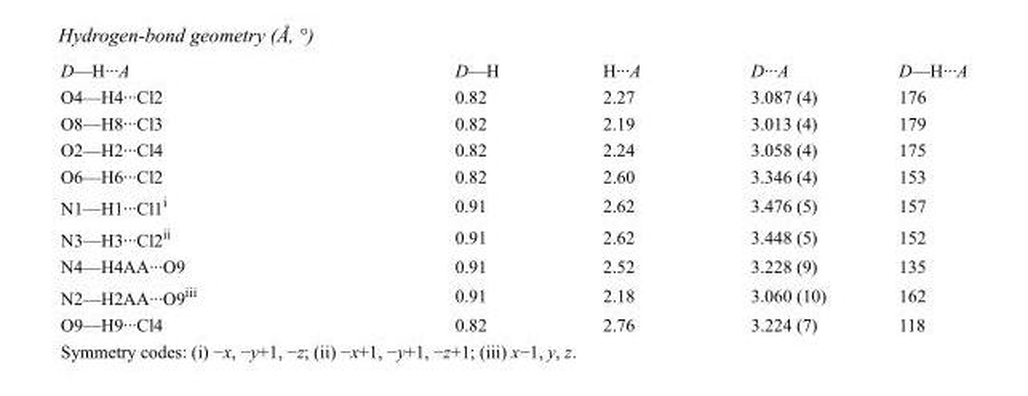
<table><tbody><tr><td>D—H···A</td><td>D—H</td><td>H···A</td><td>D···A</td><td>D—H···A</td></tr><tr><td>O4—H4···Cl2</td><td>0.82</td><td>2.27</td><td>3.087 (4)</td><td>176</td></tr><tr><td>O8—H8···Cl3</td><td>0.82</td><td>2.19</td><td>3.013 (4)</td><td>179</td></tr><tr><td>O2—H2···Cl4</td><td>0.82</td><td>2.24</td><td>3.058 (4)</td><td>175</td></tr><tr><td>O6—H6···Cl2</td><td>0.82</td><td>2.60</td><td>3.346 (4)</td><td>153</td></tr><tr><td>N1—H1···Cl1<sup>i</sup></td><td>0.91</td><td>2.62</td><td>3.476 (5)</td><td>157</td></tr><tr><td>N3—H3···Cl2<sup>ii</sup></td><td>0.91</td><td>2.62</td><td>3.448 (5)</td><td>152</td></tr><tr><td>N4—H4AA···O9</td><td>0.91</td><td>2.52</td><td>3.228 (9)</td><td>135</td></tr><tr><td>N2—H2AA···O9<sup>iii</sup></td><td>0.91</td><td>2.18</td><td>3.060 (10)</td><td>162</td></tr><tr><td>O9—H9···Cl4</td><td>0.82</td><td>2.76</td><td>3.224 (7)</td><td>118</td></tr></tbody></table>